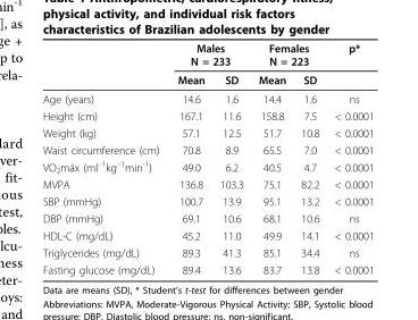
<table><thead><tr><td rowspan="2"></td><td colspan="2">Males N = 233</td><td colspan="2">Females N = 223</td><td rowspan="2">p*</td></tr><tr><td>Mean</td><td>SD</td><td>Mean</td><td>SD</td></tr></thead><tbody><tr><td>Age (years)</td><td>14.6</td><td>1.6</td><td>14.4</td><td>1.6</td><td>ns</td></tr><tr><td>Height (cm)</td><td>167.1</td><td>11.6</td><td>158.8</td><td>7.5</td><td>&lt; 0.0001</td></tr><tr><td>Weight (kg)</td><td>57.1</td><td>12.5</td><td>51.7</td><td>10.8</td><td>&lt; 0.0001</td></tr><tr><td>Waist circumference (cm)</td><td>70.8</td><td>8.9</td><td>65.5</td><td>7.0</td><td>&lt; 0.0001</td></tr><tr><td>VO<sub>2</sub>máx (ml<sup>.-1</sup>kg<sup>.-1</sup>min<sup>-1</sup>)</td><td>49.0</td><td>6.2</td><td>40.5</td><td>4.7</td><td>&lt; 0.0001</td></tr><tr><td>MVPA</td><td>136.8</td><td>103.3</td><td>75.1</td><td>82.2</td><td>&lt; 0.0001</td></tr><tr><td>SBP (mmHg)</td><td>100.7</td><td>13.9</td><td>95.1</td><td>13.2</td><td>&lt; 0.0001</td></tr><tr><td>DBP (mmHg)</td><td>69.1</td><td>10.6</td><td>68.1</td><td>10.6</td><td>ns</td></tr><tr><td>HDL-C (mg/dL)</td><td>45.2</td><td>11.0</td><td>49.9</td><td>14.1</td><td>&lt; 0.0001</td></tr><tr><td>Triglycerides (mg/dL)</td><td>89.3</td><td>41.3</td><td>85.1</td><td>34.4</td><td>ns</td></tr><tr><td>Fasting glucose (mg/dL)</td><td>89.4</td><td>13.6</td><td>83.7</td><td>13.8</td><td>&lt; 0.0001</td></tr></tbody></table>